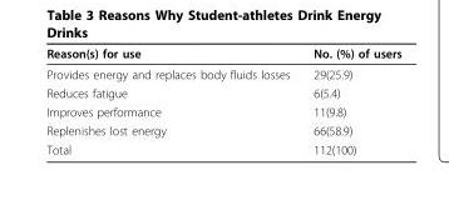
<table><thead><tr><td>Reason(s) for use</td><td>No. (%) of users</td></tr></thead><tbody><tr><td>Provides energy and replaces body fluids losses</td><td>29(25.9)</td></tr><tr><td>Reduces fatigue</td><td>6(5.4)</td></tr><tr><td>Improves performance</td><td>11(9.8)</td></tr><tr><td>Replenishes lost energy</td><td>66(58.9)</td></tr><tr><td>Total</td><td>112(100)</td></tr></tbody></table>